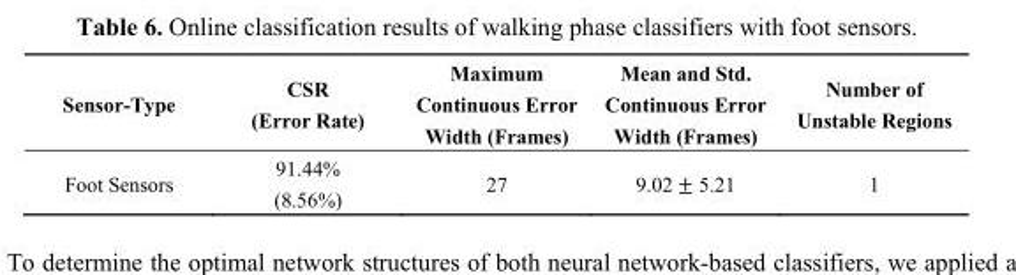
<table><thead><tr><td>Sensor-Type</td><td>CSR (Error Rate)</td><td>Maximum Continuous Error Width (Frames)</td><td>Mean and Std. Continuous Error Width (Frames)</td><td>Number of Unstable Regions</td></tr></thead><tbody><tr><td>Foot Sensors</td><td>91.44% (8.56%)</td><td>27</td><td>9.02 ± 5.21</td><td>1</td></tr></tbody></table>